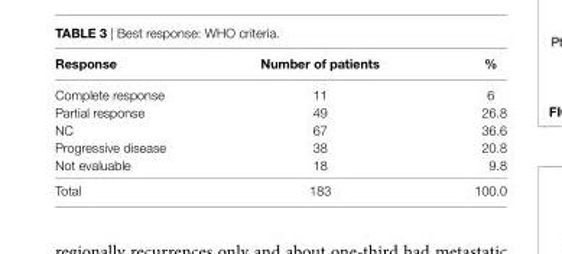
<table><thead><tr><td>response</td><td>number of patients</td><td>%</td></tr></thead><tbody><tr><td>Complete response</td><td>11</td><td>6</td></tr><tr><td>Partial response</td><td>49</td><td>26.8</td></tr><tr><td>NC</td><td>67</td><td>36.6</td></tr><tr><td>Progressive disease</td><td>38</td><td>20.8</td></tr><tr><td>Not evaluable</td><td>18</td><td>9.8</td></tr><tr><td>Total</td><td>183</td><td>100.0</td></tr></tbody></table>